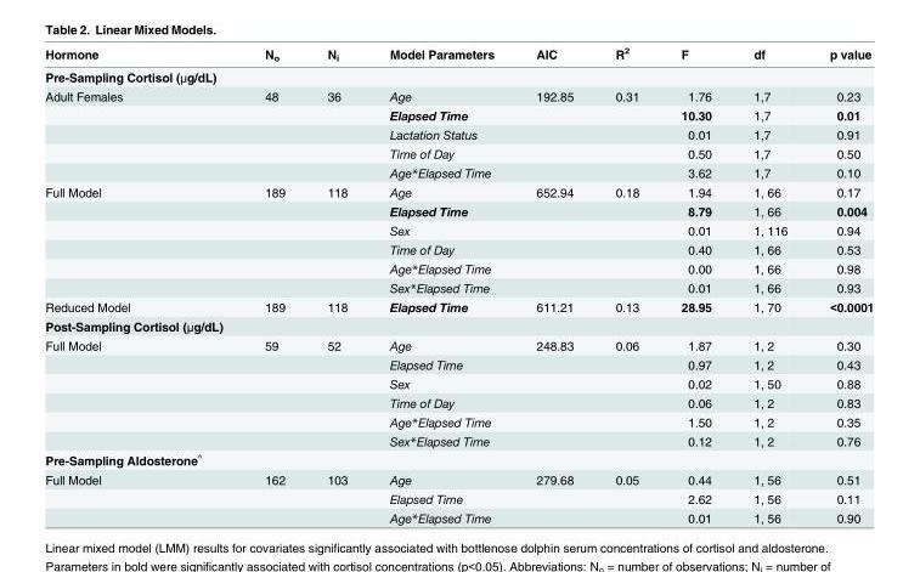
<table><thead><tr><td>Hormone</td><td>N<sub>o</sub></td><td>N<sub>i</sub></td><td>Model Parameters</td><td>AIC</td><td>R<sup>2</sup></td><td>F</td><td>df</td><td>p value</td></tr></thead><tbody><tr><td colspan="9">Pre-Sampling Cortisol (μg/dL)</td></tr><tr><td rowspan="5">Adult Females</td><td>48</td><td>36</td><td>Age</td><td>192.85</td><td>0.31</td><td>1.76</td><td>1,7</td><td>0.23</td></tr><tr><td></td><td></td><td>Elapsed Time</td><td></td><td></td><td>10.30</td><td>1,7</td><td>0.01</td></tr><tr><td></td><td></td><td>Lactation Status</td><td></td><td></td><td>0.01</td><td>1,7</td><td>0.91</td></tr><tr><td></td><td></td><td>Time of Day</td><td></td><td></td><td>0.50</td><td>1,7</td><td>0.50</td></tr><tr><td></td><td></td><td>Age*Elapsed Time</td><td></td><td></td><td>3.62</td><td>1,7</td><td>0.10</td></tr><tr><td rowspan="6">Full Model</td><td>189</td><td>118</td><td>Age</td><td>652.94</td><td>0.18</td><td>1.94</td><td>1, 66</td><td>0.17</td></tr><tr><td></td><td></td><td>Elapsed Time</td><td></td><td></td><td>8.79</td><td>1, 66</td><td>0.004</td></tr><tr><td></td><td></td><td>Sex</td><td></td><td></td><td>0.01</td><td>1, 116</td><td>0.94</td></tr><tr><td></td><td></td><td>Time of Day</td><td></td><td></td><td>0.40</td><td>1, 66</td><td>0.53</td></tr><tr><td></td><td></td><td>Age*Elapsed Time</td><td></td><td></td><td>0.00</td><td>1, 66</td><td>0.98</td></tr><tr><td></td><td></td><td>Sex*Elapsed Time</td><td></td><td></td><td>0.01</td><td>1, 66</td><td>0.93</td></tr><tr><td>Reduced Model</td><td>189</td><td>118</td><td>Elapsed Time</td><td>611.21</td><td>0.13</td><td>28.95</td><td>1, 70</td><td>&lt;0.0001</td></tr><tr><td colspan="9">Post-Sampling Cortisol (μg/dL)</td></tr><tr><td rowspan="6">Full Model</td><td>59</td><td>52</td><td>Age</td><td>248.83</td><td>0.06</td><td>1.87</td><td>1, 2</td><td>0.30</td></tr><tr><td></td><td></td><td>Elapsed Time</td><td></td><td></td><td>0.97</td><td>1, 2</td><td>0.43</td></tr><tr><td></td><td></td><td>Sex</td><td></td><td></td><td>0.02</td><td>1, 50</td><td>0.88</td></tr><tr><td></td><td></td><td>Time of Day</td><td></td><td></td><td>0.06</td><td>1, 2</td><td>0.83</td></tr><tr><td></td><td></td><td>Age*Elapsed Time</td><td></td><td></td><td>1.50</td><td>1, 2</td><td>0.35</td></tr><tr><td></td><td></td><td>Sex*Elapsed Time</td><td></td><td></td><td>0.12</td><td>1, 2</td><td>0.76</td></tr><tr><td colspan="9">Pre-Sampling Aldosterone<sup>^</sup></td></tr><tr><td rowspan="3">Full Model</td><td>162</td><td>103</td><td>Age</td><td>279.68</td><td>0.05</td><td>0.44</td><td>1, 56</td><td>0.51</td></tr><tr><td></td><td></td><td>Elapsed Time</td><td></td><td></td><td>2.62</td><td>1, 56</td><td>0.11</td></tr><tr><td></td><td></td><td>Age*Elapsed Time</td><td></td><td></td><td>0.01</td><td>1, 56</td><td>0.90</td></tr></tbody></table>